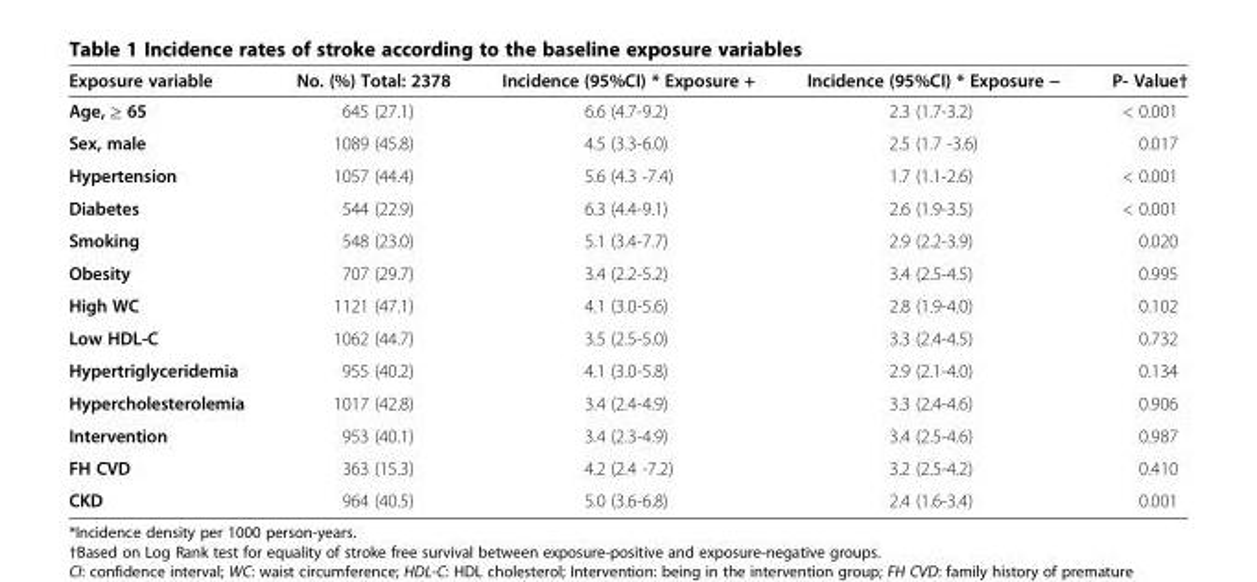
<table><thead><tr><td>Exposure variable</td><td>No. (%) Total: 2378</td><td>Incidence (95%CI) * Exposure +</td><td>Incidence (95%CI) * Exposure −</td><td>P- Value†</td></tr></thead><tbody><tr><td>Age, ≥ 65</td><td>645 (27.1)</td><td>6.6 (4.7-9.2)</td><td>2.3 (1.7-3.2)</td><td>&lt; 0.001</td></tr><tr><td>Sex, male</td><td>1089 (45.8)</td><td>4.5 (3.3-6.0)</td><td>2.5 (1.7 -3.6)</td><td>0.017</td></tr><tr><td>Hypertension</td><td>1057 (44.4)</td><td>5.6 (4.3 -7.4)</td><td>1.7 (1.1-2.6)</td><td>&lt; 0.001</td></tr><tr><td>Diabetes</td><td>544 (22.9)</td><td>6.3 (4.4-9.1)</td><td>2.6 (1.9-3.5)</td><td>&lt; 0.001</td></tr><tr><td>Smoking</td><td>548 (23.0)</td><td>5.1 (3.4-7.7)</td><td>2.9 (2.2-3.9)</td><td>0.020</td></tr><tr><td>Obesity</td><td>707 (29.7)</td><td>3.4 (2.2-5.2)</td><td>3.4 (2.5-4.5)</td><td>0.995</td></tr><tr><td>High WC</td><td>1121 (47.1)</td><td>4.1 (3.0-5.6)</td><td>2.8 (1.9-4.0)</td><td>0.102</td></tr><tr><td>Low HDL-C</td><td>1062 (44.7)</td><td>3.5 (2.5-5.0)</td><td>3.3 (2.4-4.5)</td><td>0.732</td></tr><tr><td>Hypertriglyceridemia</td><td>955 (40.2)</td><td>4.1 (3.0-5.8)</td><td>2.9 (2.1-4.0)</td><td>0.134</td></tr><tr><td>Hypercholesterolemia</td><td>1017 (42.8)</td><td>3.4 (2.4-4.9)</td><td>3.3 (2.4-4.6)</td><td>0.906</td></tr><tr><td>Intervention</td><td>953 (40.1)</td><td>3.4 (2.3-4.9)</td><td>3.4 (2.5-4.6)</td><td>0.987</td></tr><tr><td>FH CVD</td><td>363 (15.3)</td><td>4.2 (2.4 -7.2)</td><td>3.2 (2.5-4.2)</td><td>0.410</td></tr><tr><td>CKD</td><td>964 (40.5)</td><td>5.0 (3.6-6.8)</td><td>2.4 (1.6-3.4)</td><td>0.001</td></tr></tbody></table>